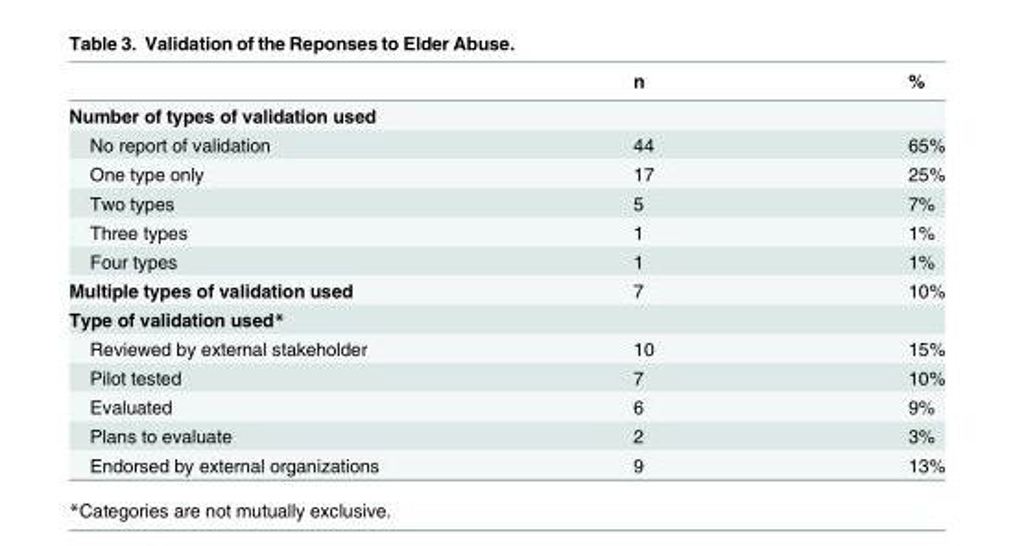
<table><thead><tr><td></td><td>n</td><td>%</td></tr></thead><tbody><tr><td colspan="3">Number of types of validation used</td></tr><tr><td>No report of validation</td><td>44</td><td>65%</td></tr><tr><td>One type only</td><td>17</td><td>25%</td></tr><tr><td>Two types</td><td>5</td><td>7%</td></tr><tr><td>Three types</td><td>1</td><td>1%</td></tr><tr><td>Four types</td><td>1</td><td>1%</td></tr><tr><td>Multiple types of validation used</td><td>7</td><td>10%</td></tr><tr><td colspan="3">Type of validation used*</td></tr><tr><td>Reviewed by external stakeholder</td><td>10</td><td>15%</td></tr><tr><td>Pilot tested</td><td>7</td><td>10%</td></tr><tr><td>Evaluated</td><td>6</td><td>9%</td></tr><tr><td>Plans to evaluate</td><td>2</td><td>3%</td></tr><tr><td>Endorsed by external organizations</td><td>9</td><td>13%</td></tr></tbody></table>